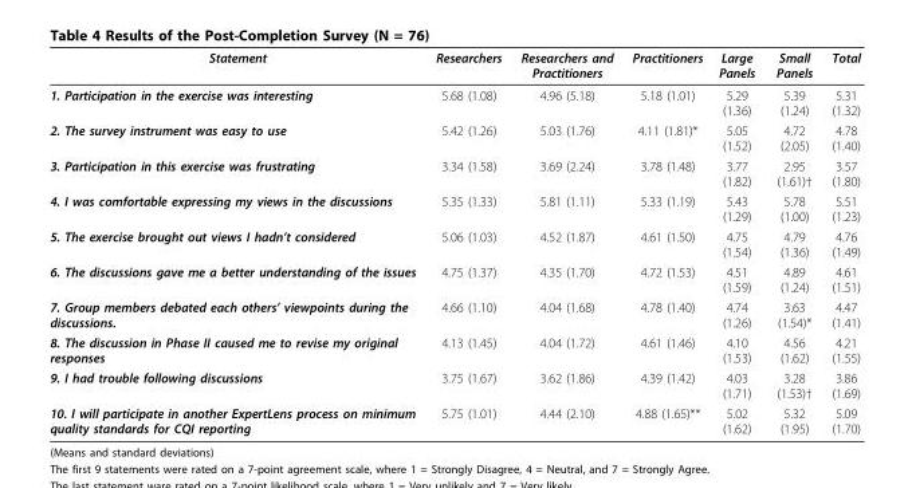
<table><thead><tr><td>Statement</td><td>Researchers</td><td>Researchers and Practitioners</td><td>Practitioners</td><td>Large Panels</td><td>Small Panels</td><td>Total</td></tr></thead><tbody><tr><td>1. Participation in the exercise was interesting</td><td>5.68 (1.08)</td><td>4.96 (5.18)</td><td>5.18 (1.01)</td><td>5.29 (1.36)</td><td>5.39 (1.24)</td><td>5.31 (1.32)</td></tr><tr><td>2. The survey instrument was easy to use</td><td>5.42 (1.26)</td><td>5.03 (1.76)</td><td>4.11 (1.81)*</td><td>5.05 (1.52)</td><td>4.72 (2.05)</td><td>4.78 (1.40)</td></tr><tr><td>3. Participation in this exercise was frustrating</td><td>3.34 (1.58)</td><td>3.69 (2.24)</td><td>3.78 (1.48)</td><td>3.77 (1.82)</td><td>2.95 (1.61)†</td><td>3.57 (1.80)</td></tr><tr><td>4. I was comfortable expressing my views in the discussions</td><td>5.35 (1.33)</td><td>5.81 (1.11)</td><td>5.33 (1.19)</td><td>5.43 (1.29)</td><td>5.78 (1.00)</td><td>5.51 (1.23)</td></tr><tr><td>5. The exercise brought out views I hadn’t considered</td><td>5.06 (1.03)</td><td>4.52 (1.87)</td><td>4.61 (1.50)</td><td>4.75 (1.54)</td><td>4.79 (1.36)</td><td>4.76 (1.49)</td></tr><tr><td>6. The discussions gave me a better understanding of the issues</td><td>4.75 (1.37)</td><td>4.35 (1.70)</td><td>4.72 (1.53)</td><td>4.51 (1.59)</td><td>4.89 (1.24)</td><td>4.61 (1.51)</td></tr><tr><td>7. Group members debated each others’ viewpoints during the discussions.</td><td>4.66 (1.10)</td><td>4.04 (1.68)</td><td>4.78 (1.40)</td><td>4.74 (1.26)</td><td>3.63 (1.54)*</td><td>4.47 (1.41)</td></tr><tr><td>8. The discussion in Phase II caused me to revise my original responses</td><td>4.13 (1.45)</td><td>4.04 (1.72)</td><td>4.61 (1.46)</td><td>4.10 (1.53)</td><td>4.56 (1.62)</td><td>4.21 (1.55)</td></tr><tr><td>9. I had trouble following discussions</td><td>3.75 (1.67)</td><td>3.62 (1.86)</td><td>4.39 (1.42)</td><td>4.03 (1.71)</td><td>3.28 (1.53)†</td><td>3.86 (1.69)</td></tr><tr><td>10. I will participate in another ExpertLens process on minimum quality standards for CQI reporting</td><td>5.75 (1.01)</td><td>4.44 (2.10)</td><td>4.88 (1.65)**</td><td>5.02 (1.62)</td><td>5.32 (1.95)</td><td>5.09 (1.70)</td></tr></tbody></table>